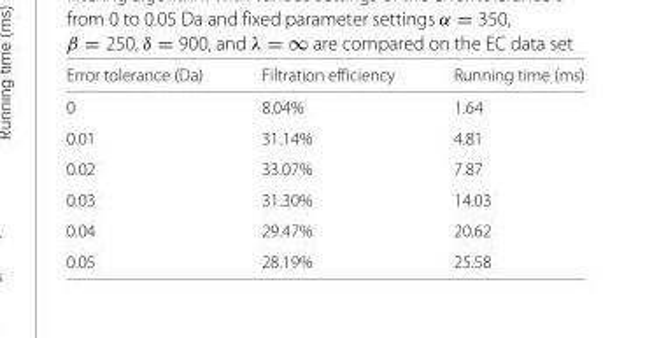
<table><thead><tr><td>Error tolerance (Da)</td><td>Filtration efficiency</td><td>Running time (ms)</td></tr></thead><tbody><tr><td>0</td><td>8.04%</td><td>1.64</td></tr><tr><td>0.01</td><td>31.14%</td><td>4.81</td></tr><tr><td>0.02</td><td>33.07%</td><td>7.87</td></tr><tr><td>0.03</td><td>31.30%</td><td>14.03</td></tr><tr><td>0.04</td><td>29.47%</td><td>20.62</td></tr><tr><td>0.05</td><td>28.19%</td><td>25.58</td></tr></tbody></table>